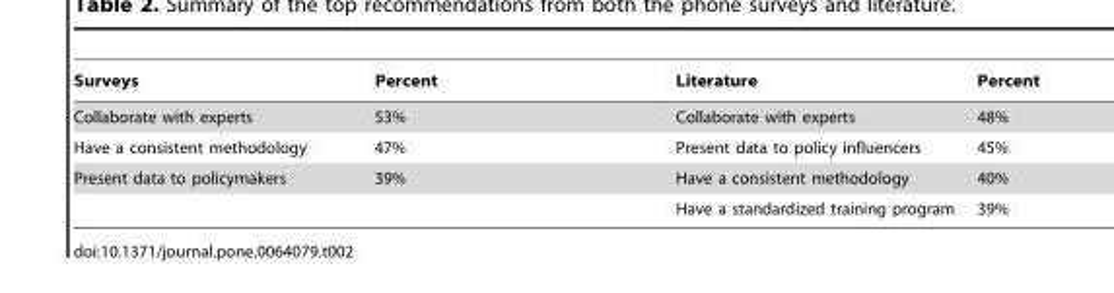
<table><thead><tr><td>Surveys</td><td>Percent</td><td>Literature</td><td>Percent</td></tr></thead><tbody><tr><td>Collaborate with experts</td><td>53%</td><td>Collaborate with experts</td><td>48%</td></tr><tr><td>Have a consistent methodology</td><td>47%</td><td>Present data to policy influencers</td><td>45%</td></tr><tr><td rowspan="2">Present data to policymakers</td><td>39%</td><td>Have a consistent methodology</td><td>40%</td></tr><tr><td></td><td>Have a standardized training program</td><td>39%</td></tr></tbody></table>